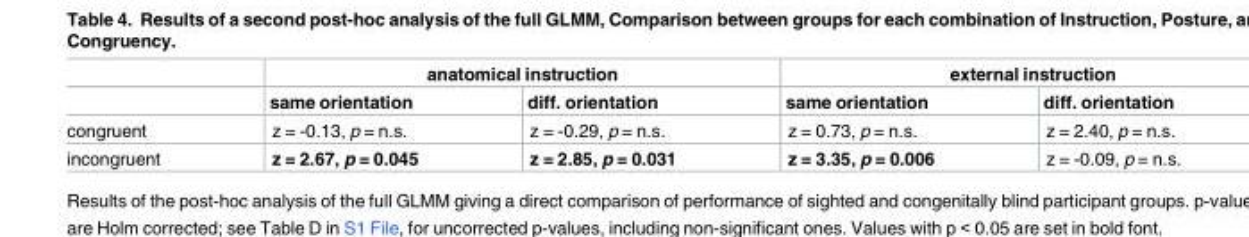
<table><thead><tr><td rowspan="2"></td><td colspan="2">anatomical instruction</td><td colspan="2">external instruction</td></tr><tr><td>same orientation</td><td>diff. orientation</td><td>same orientation</td><td>diff. orientation</td></tr></thead><tbody><tr><td>congruent</td><td>z = -0.13, p = n.s.</td><td>z = -0.29, p = n.s.</td><td>z = 0.73, p = n.s.</td><td>z = 2.40, p = n.s.</td></tr><tr><td>incongruent</td><td>z = 2.67, p = 0.045</td><td>z = 2.85, p = 0.031</td><td>z = 3.35, p = 0.006</td><td>z = -0.09, p = n.s.</td></tr></tbody></table>